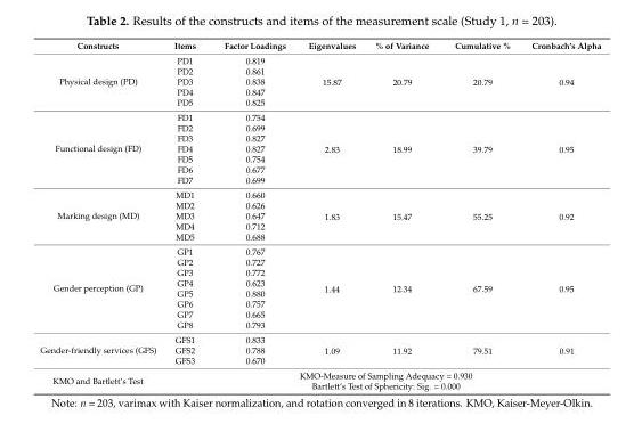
<table><thead><tr><td>Constructs</td><td>Items</td><td>Factor Loadings</td><td>Eigenvalues</td><td>% of Variance</td><td>Cumulative %</td><td>Cronbach’s Alpha</td></tr></thead><tbody><tr><td rowspan="5">Physical design (PD)</td><td>PD1</td><td>0.819</td><td rowspan="5">15.87</td><td rowspan="5">20.79</td><td rowspan="5">20.79</td><td rowspan="5">0.94</td></tr><tr><td>PD2</td><td>0.861</td></tr><tr><td>PD3</td><td>0.838</td></tr><tr><td>PD4</td><td>0.847</td></tr><tr><td>PD5</td><td>0.825</td></tr><tr><td rowspan="7">Functional design (FD)</td><td>FD1</td><td>0.754</td><td rowspan="7">2.83</td><td rowspan="7">18.99</td><td rowspan="7">39.79</td><td rowspan="7">0.95</td></tr><tr><td>FD2</td><td>0.699</td></tr><tr><td>FD3</td><td>0.827</td></tr><tr><td>FD4</td><td>0.827</td></tr><tr><td>FD5</td><td>0.754</td></tr><tr><td>FD6</td><td>0.677</td></tr><tr><td>FD7</td><td>0.699</td></tr><tr><td rowspan="5">Marking design (MD)</td><td>MD1</td><td>0.660</td><td rowspan="5">1.83</td><td rowspan="5">15.47</td><td rowspan="5">55.25</td><td rowspan="5">0.92</td></tr><tr><td>MD2</td><td>0.626</td></tr><tr><td>MD3</td><td>0.647</td></tr><tr><td>MD4</td><td>0.712</td></tr><tr><td>MD5</td><td>0.688</td></tr><tr><td rowspan="8">Gender perception (GP)</td><td>GP1</td><td>0.767</td><td rowspan="8">1.44</td><td rowspan="8">12.34</td><td rowspan="8">67.59</td><td rowspan="8">0.95</td></tr><tr><td>GP2</td><td>0.727</td></tr><tr><td>GP3</td><td>0.772</td></tr><tr><td>GP4</td><td>0.623</td></tr><tr><td>GP5</td><td>0.880</td></tr><tr><td>GP6</td><td>0.757</td></tr><tr><td>GP7</td><td>0.665</td></tr><tr><td>GP8</td><td>0.793</td></tr><tr><td rowspan="3">Gender-friendly services (GFS)</td><td>GFS1</td><td>0.833</td><td rowspan="3">1.09</td><td rowspan="3">11.92</td><td rowspan="3">79.51</td><td rowspan="3">0.91</td></tr><tr><td>GFS2</td><td>0.788</td></tr><tr><td>GFS3</td><td>0.670</td></tr><tr><td>KMO and Bartlett’s Test</td><td colspan="6">KMO-Measure of Sampling Adequacy = 0.930 Bartlett’s Test of Sphericity: Sig. = 0.000</td></tr></tbody></table>